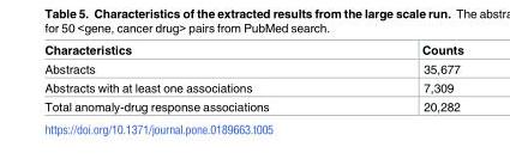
<table><thead><tr><td>Characteristics</td><td>Counts</td></tr></thead><tbody><tr><td>Abstracts</td><td>35,677</td></tr><tr><td>Abstracts with at least one associations</td><td>7,309</td></tr><tr><td>Total anomaly-drug response associations</td><td>20,282</td></tr></tbody></table>